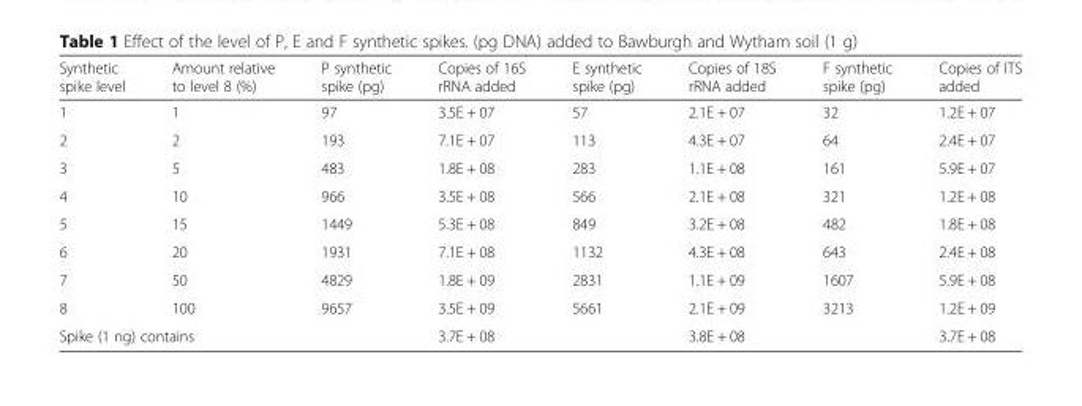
<table><thead><tr><td>Synthetic spike level</td><td>Amount relative to level 8 (%)</td><td>P synthetic spike (pg)</td><td>Copies of 16S rRNA added</td><td>E synthetic spike (pg)</td><td>Copies of 18S rRNA added</td><td>F synthetic spike (pg)</td><td>Copies of ITS added</td></tr></thead><tbody><tr><td>1</td><td>1</td><td>97</td><td>3.5E + 07</td><td>57</td><td>2.1E + 07</td><td>32</td><td>1.2E + 07</td></tr><tr><td>2</td><td>2</td><td>193</td><td>7.1E + 07</td><td>113</td><td>4.3E + 07</td><td>64</td><td>2.4E + 07</td></tr><tr><td>3</td><td>5</td><td>483</td><td>1.8E + 08</td><td>283</td><td>1.1E + 08</td><td>161</td><td>5.9E + 07</td></tr><tr><td>4</td><td>10</td><td>966</td><td>3.5E + 08</td><td>566</td><td>2.1E + 08</td><td>321</td><td>1.2E + 08</td></tr><tr><td>5</td><td>15</td><td>1449</td><td>5.3E + 08</td><td>849</td><td>3.2E + 08</td><td>482</td><td>1.8E + 08</td></tr><tr><td>6</td><td>20</td><td>1931</td><td>7.1E + 08</td><td>1132</td><td>4.3E + 08</td><td>643</td><td>2.4E + 08</td></tr><tr><td>7</td><td>50</td><td>4829</td><td>1.8E + 09</td><td>2831</td><td>1.1E + 09</td><td>1607</td><td>5.9E + 08</td></tr><tr><td>8</td><td>100</td><td>9657</td><td>3.5E + 09</td><td>5661</td><td>2.1E + 09</td><td>3213</td><td>1.2E + 09</td></tr><tr><td colspan="3">Spike (1 ng) contains</td><td>3.7E + 08</td><td></td><td>3.8E + 08</td><td></td><td>3.7E + 08</td></tr></tbody></table>